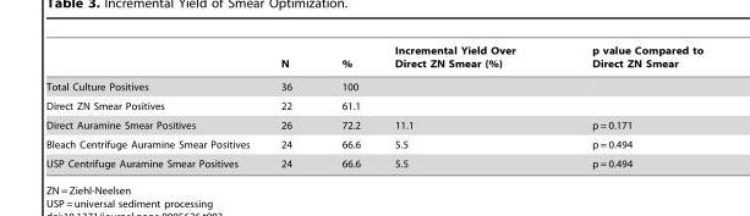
<table><thead><tr><td></td><td>N</td><td>%</td><td>Incremental Yield Over Direct ZN Smear (%)</td><td>p value Compared to Direct ZN Smear</td></tr></thead><tbody><tr><td>Total Culture Positives</td><td>36</td><td>100</td><td></td><td></td></tr><tr><td>Direct ZN Smear Positives</td><td>22</td><td>61.1</td><td></td><td></td></tr><tr><td>Direct Auramine Smear Positives</td><td>26</td><td>72.2</td><td>11.1</td><td>p = 0.171</td></tr><tr><td>Bleach Centrifuge Auramine Smear Positives</td><td>24</td><td>66.6</td><td>5.5</td><td>p = 0.494</td></tr><tr><td>USP Centrifuge Auramine Smear Positives</td><td>24</td><td>66.6</td><td>5.5</td><td>p = 0.494</td></tr></tbody></table>